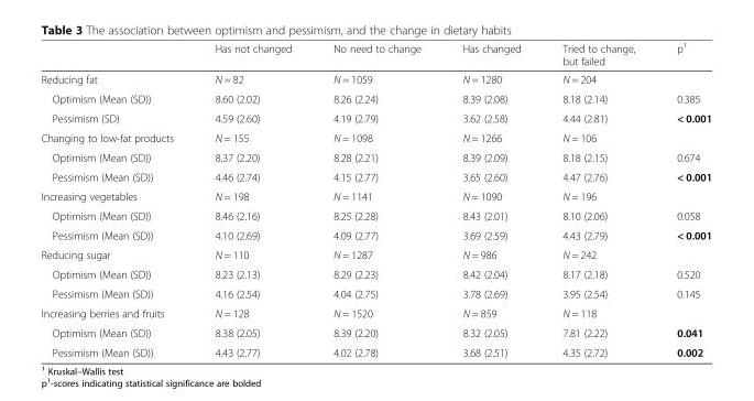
<table><thead><tr><td></td><td>Has not changed</td><td>No need to change</td><td>Has changed</td><td>Tried to change, but failed</td><td>p<sup>1</sup></td></tr></thead><tbody><tr><td>Reducing fat</td><td>N = 82</td><td>N = 1059</td><td>N = 1280</td><td>N = 204</td><td></td></tr><tr><td>Optimism (Mean (SD))</td><td>8.60 (2.02)</td><td>8.26 (2.24)</td><td>8.39 (2.08)</td><td>8.18 (2.14)</td><td>0.385</td></tr><tr><td>Pessimism (SD)</td><td>4.59 (2.60)</td><td>4.19 (2.79)</td><td>3.62 (2.58)</td><td>4.44 (2.81)</td><td>&lt; 0.001</td></tr><tr><td>Changing to low-fat products</td><td>N = 155</td><td>N = 1098</td><td>N = 1266</td><td>N = 106</td><td></td></tr><tr><td>Optimism (Mean (SD))</td><td>8.37 (2.20)</td><td>8.28 (2.21)</td><td>8.39 (2.09)</td><td>8.18 (2.15)</td><td>0.674</td></tr><tr><td>Pessimism (Mean (SD))</td><td>4.46 (2.74)</td><td>4.15 (2.77)</td><td>3.65 (2.60)</td><td>4.47 (2.76)</td><td>&lt; 0.001</td></tr><tr><td>Increasing vegetables</td><td>N = 198</td><td>N = 1141</td><td>N = 1090</td><td>N = 196</td><td></td></tr><tr><td>Optimism (Mean (SD))</td><td>8.46 (2.16)</td><td>8.25 (2.28)</td><td>8.43 (2.01)</td><td>8.10 (2.06)</td><td>0.058</td></tr><tr><td>Pessimism (Mean (SD))</td><td>4.10 (2.69)</td><td>4.09 (2.77)</td><td>3.69 (2.59)</td><td>4.43 (2.79)</td><td>&lt; 0.001</td></tr><tr><td>Reducing sugar</td><td>N = 110</td><td>N = 1287</td><td>N = 986</td><td>N = 242</td><td></td></tr><tr><td>Optimism (Mean (SD))</td><td>8.23 (2.13)</td><td>8.29 (2.23)</td><td>8.42 (2.04)</td><td>8.17 (2.18)</td><td>0.520</td></tr><tr><td>Pessimism (Mean (SD))</td><td>4.16 (2.54)</td><td>4.04 (2.75)</td><td>3.78 (2.69)</td><td>3.95 (2.54)</td><td>0.145</td></tr><tr><td>Increasing berries and fruits</td><td>N = 128</td><td>N = 1520</td><td>N = 859</td><td>N = 118</td><td></td></tr><tr><td>Optimism (Mean (SD))</td><td>8.38 (2.05)</td><td>8.39 (2.20)</td><td>8.32 (2.05)</td><td>7.81 (2.22)</td><td>0.041</td></tr><tr><td>Pessimism (Mean (SD))</td><td>4.43 (2.77)</td><td>4.02 (2.78)</td><td>3.68 (2.51)</td><td>4.35 (2.72)</td><td>0.002</td></tr></tbody></table>